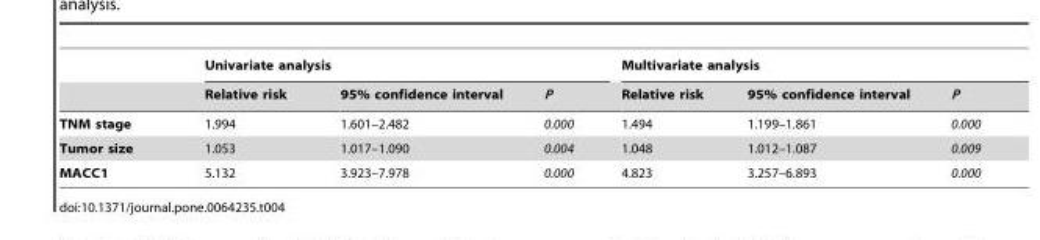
<table><thead><tr><td rowspan="2"></td><td colspan="3">Univariate analysis</td><td colspan="3">Multivariate analysis</td></tr><tr><td>Relative risk</td><td>95% confidence interval</td><td>P</td><td>Relative risk</td><td>95% confidence interval</td><td>P</td></tr></thead><tbody><tr><td>TNM stage</td><td>1.994</td><td>1.601–2.482</td><td>0.000</td><td>1.494</td><td>1.199–1.861</td><td>0.000</td></tr><tr><td>Tumor size</td><td>1.053</td><td>1.017–1.090</td><td>0.004</td><td>1.048</td><td>1.012–1.087</td><td>0.009</td></tr><tr><td>MACC1</td><td>5.132</td><td>3.923–7.978</td><td>0.000</td><td>4.823</td><td>3.257–6.893</td><td>0.000</td></tr></tbody></table>